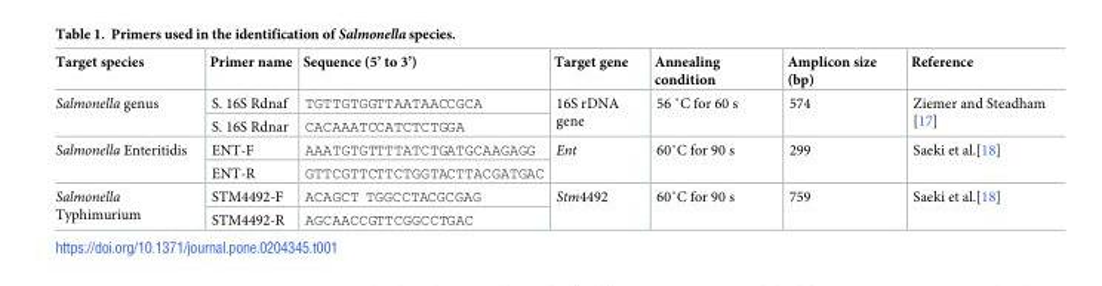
<table><thead><tr><td>Target species</td><td>Primer name</td><td>Sequence (5’ to 3’)</td><td>Target gene</td><td>Annealing condition</td><td>Amplicon size (bp)</td><td>Reference</td></tr></thead><tbody><tr><td rowspan="2">Salmonella genus</td><td>S. 16S Rdnaf</td><td>TGTTGTGGTTAATAACCGCA</td><td rowspan="2">16S rDNA gene</td><td rowspan="2">56 ˚C for 60 s</td><td rowspan="2">574</td><td rowspan="2">Ziemer and Steadham [17]</td></tr><tr><td>S. 16S Rdnar</td><td>CACAAATCCATCTCTGGA</td></tr><tr><td rowspan="2">Salmonella Enteritidis</td><td>ENT-F</td><td>AAATGTGTTTTATCTGATGCAAGAGG</td><td rowspan="2">Ent</td><td rowspan="2">60˚C for 90 s</td><td rowspan="2">299</td><td rowspan="2">Saeki et al.[18]</td></tr><tr><td>ENT-R</td><td>GTTCGTTCTTCTGGTACTTACGATGAC</td></tr><tr><td rowspan="2">Salmonella Typhimurium</td><td>STM4492-F</td><td>ACAGCT TGGCCTACGCGAG</td><td rowspan="2">Stm4492</td><td rowspan="2">60˚C for 90 s</td><td rowspan="2">759</td><td rowspan="2">Saeki et al.[18]</td></tr><tr><td>STM4492-R</td><td>AGCAACCGTTCGGCCTGAC</td></tr></tbody></table>